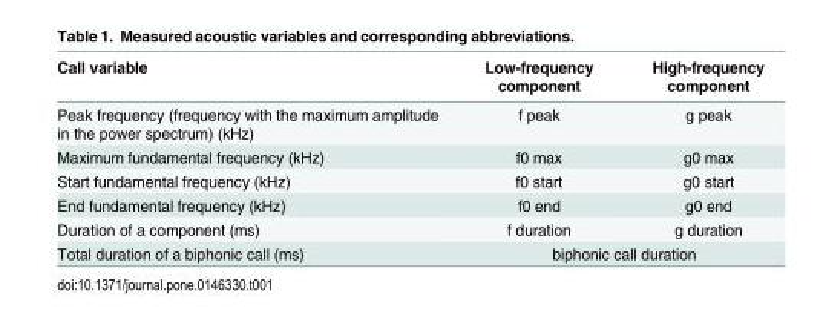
<table><thead><tr><td>Call variable</td><td>Low-frequency component</td><td>High-frequency component</td></tr></thead><tbody><tr><td>Peak frequency (frequency with the maximum amplitude in the power spectrum) (kHz)</td><td>f peak</td><td>g peak</td></tr><tr><td>Maximum fundamental frequency (kHz)</td><td>f0 max</td><td>g0 max</td></tr><tr><td>Start fundamental frequency (kHz)</td><td>f0 start</td><td>g0 start</td></tr><tr><td>End fundamental frequency (kHz)</td><td>f0 end</td><td>g0 end</td></tr><tr><td>Duration of a component (ms)</td><td>f duration</td><td>g duration</td></tr><tr><td>Total duration of a biphonic call (ms)</td><td colspan="2">biphonic call duration</td></tr></tbody></table>